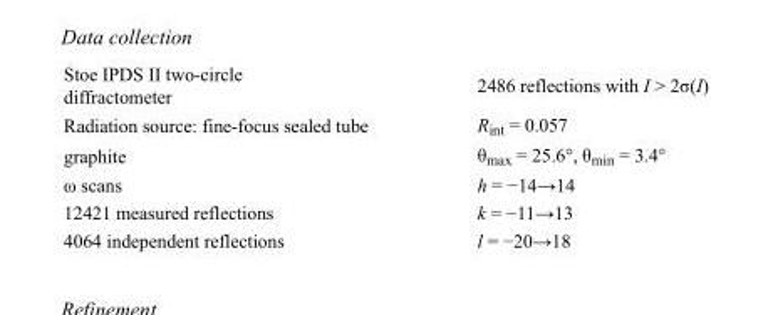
<table><tbody><tr><td>Stoe IPDS II two-circle diffractometer</td><td>2486 reflections with I &gt; 2σ(I)</td></tr><tr><td>Radiation source: fine-focus sealed tube</td><td>R<sub>int</sub> = 0.057</td></tr><tr><td>graphite</td><td>θ<sub>max</sub> = 25.6°, θ<sub>min</sub> = 3.4°</td></tr><tr><td>ω scans</td><td>h = −14→14</td></tr><tr><td>12421 measured reflections</td><td>k = −11→13</td></tr><tr><td>4064 independent reflections</td><td>l = −20→18</td></tr></tbody></table>